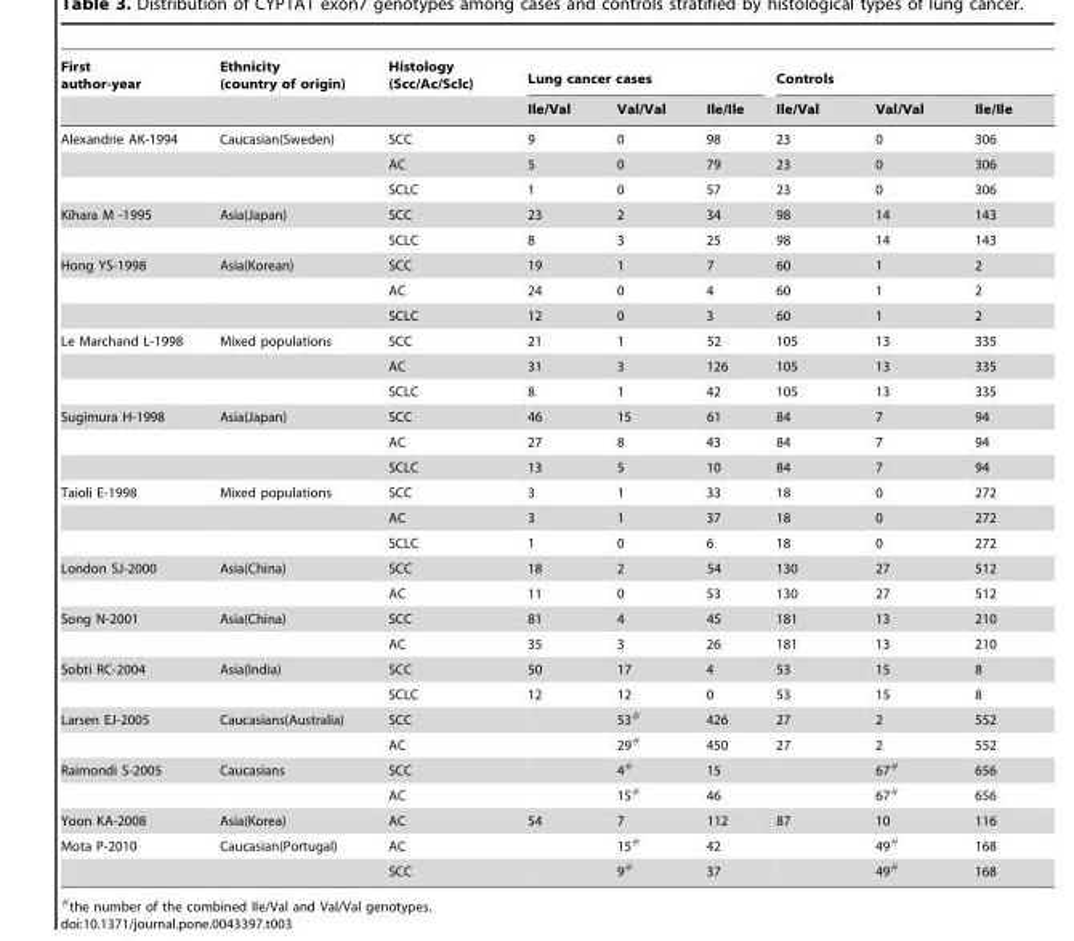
<table><thead><tr><td rowspan="2">First author-year</td><td rowspan="2">Ethnicity (country of origin)</td><td rowspan="2">Histology (Scc/Ac/Sclc)</td><td colspan="3">Lung cancer cases</td><td colspan="3">Controls</td></tr><tr><td>Ile/Val</td><td>Val/Val</td><td>Ile/Ile</td><td>Ile/Val</td><td>Val/Val</td><td>Ile/Ile</td></tr></thead><tbody><tr><td rowspan="3">Alexandrie AK-1994</td><td>Caucasian(Sweden)</td><td>SCC</td><td>9</td><td>0</td><td>98</td><td>23</td><td>0</td><td>306</td></tr><tr><td></td><td>AC</td><td>5</td><td>0</td><td>79</td><td>23</td><td>0</td><td>306</td></tr><tr><td></td><td>SCLC</td><td>1</td><td>0</td><td>57</td><td>23</td><td>0</td><td>306</td></tr><tr><td rowspan="2">Kihara M -1995</td><td>Asia(Japan)</td><td>SCC</td><td>23</td><td>2</td><td>34</td><td>98</td><td>14</td><td>143</td></tr><tr><td></td><td>SCLC</td><td>8</td><td>3</td><td>25</td><td>98</td><td>14</td><td>143</td></tr><tr><td rowspan="3">Hong YS-1998</td><td>Asia(Korean)</td><td>SCC</td><td>19</td><td>1</td><td>7</td><td>60</td><td>1</td><td>2</td></tr><tr><td></td><td>AC</td><td>24</td><td>0</td><td>4</td><td>60</td><td>1</td><td>2</td></tr><tr><td></td><td>SCLC</td><td>12</td><td>0</td><td>3</td><td>60</td><td>1</td><td>2</td></tr><tr><td rowspan="3">Le Marchand L-1998</td><td>Mixed populations</td><td>SCC</td><td>21</td><td>1</td><td>52</td><td>105</td><td>13</td><td>335</td></tr><tr><td></td><td>AC</td><td>31</td><td>3</td><td>126</td><td>105</td><td>13</td><td>335</td></tr><tr><td></td><td>SCLC</td><td>8</td><td>1</td><td>42</td><td>105</td><td>13</td><td>335</td></tr><tr><td rowspan="3">Sugimura H-1998</td><td>Asia(Japan)</td><td>SCC</td><td>46</td><td>15</td><td>61</td><td>84</td><td>7</td><td>94</td></tr><tr><td></td><td>AC</td><td>27</td><td>8</td><td>43</td><td>84</td><td>7</td><td>94</td></tr><tr><td></td><td>SCLC</td><td>13</td><td>5</td><td>10</td><td>84</td><td>7</td><td>94</td></tr><tr><td rowspan="3">Taioli E-1998</td><td>Mixed populations</td><td>SCC</td><td>3</td><td>1</td><td>33</td><td>18</td><td>0</td><td>272</td></tr><tr><td></td><td>AC</td><td>3</td><td>1</td><td>37</td><td>18</td><td>0</td><td>272</td></tr><tr><td></td><td>SCLC</td><td>1</td><td>0</td><td>6</td><td>18</td><td>0</td><td>272</td></tr><tr><td rowspan="2">London SJ-2000</td><td>Asia(China)</td><td>SCC</td><td>18</td><td>2</td><td>54</td><td>130</td><td>27</td><td>512</td></tr><tr><td></td><td>AC</td><td>11</td><td>0</td><td>53</td><td>130</td><td>27</td><td>512</td></tr><tr><td rowspan="2">Song N-2001</td><td>Asia(China)</td><td>SCC</td><td>81</td><td>4</td><td>45</td><td>181</td><td>13</td><td>210</td></tr><tr><td></td><td>AC</td><td>35</td><td>3</td><td>26</td><td>181</td><td>13</td><td>210</td></tr><tr><td rowspan="2">Sobti RC-2004</td><td>Asia(India)</td><td>SCC</td><td>50</td><td>17</td><td>4</td><td>53</td><td>15</td><td>8</td></tr><tr><td></td><td>SCLC</td><td>12</td><td>12</td><td>0</td><td>53</td><td>15</td><td>8</td></tr><tr><td rowspan="2">Larsen EJ-2005</td><td>Caucasians(Australia)</td><td>SCC</td><td></td><td>53#</td><td>426</td><td>27</td><td>2</td><td>552</td></tr><tr><td></td><td>AC</td><td></td><td>29#</td><td>450</td><td>27</td><td>2</td><td>552</td></tr><tr><td rowspan="2">Raimondi S-2005</td><td>Caucasians</td><td>SCC</td><td></td><td>4#</td><td>15</td><td></td><td>67#</td><td>656</td></tr><tr><td></td><td>AC</td><td></td><td>15#</td><td>46</td><td></td><td>67#</td><td>656</td></tr><tr><td>Yoon KA-2008</td><td>Asia(Korea)</td><td>AC</td><td>54</td><td>7</td><td>112</td><td>87</td><td>10</td><td>116</td></tr><tr><td rowspan="2">Mota P-2010</td><td>Caucasian(Portugal)</td><td>AC</td><td></td><td>15#</td><td>42</td><td></td><td>49#</td><td>168</td></tr><tr><td></td><td>SCC</td><td></td><td>9#</td><td>37</td><td></td><td>49#</td><td>168</td></tr></tbody></table>